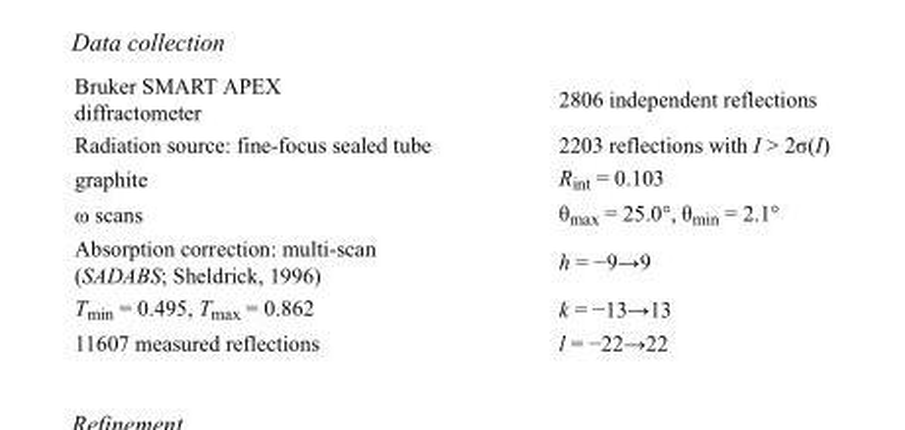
<table><tbody><tr><td>Bruker SMART APEX diffractometer</td><td>2806 independent reflections</td></tr><tr><td>Radiation source: fine-focus sealed tube</td><td>2203 reflections with I &gt; 2σ(I)</td></tr><tr><td>graphite</td><td>R<sub>int</sub> = 0.103</td></tr><tr><td>ω scans</td><td>θ<sub>max</sub> = 25.0°, θ<sub>min</sub> = 2.1°</td></tr><tr><td>Absorption correction: multi-scan (SADABS; Sheldrick, 1996)</td><td>h = −9→9</td></tr><tr><td>T<sub>min</sub> = 0.495, T<sub>max</sub> = 0.862</td><td>k = −13→13</td></tr><tr><td>11607 measured reflections</td><td>l = −22→22</td></tr></tbody></table>